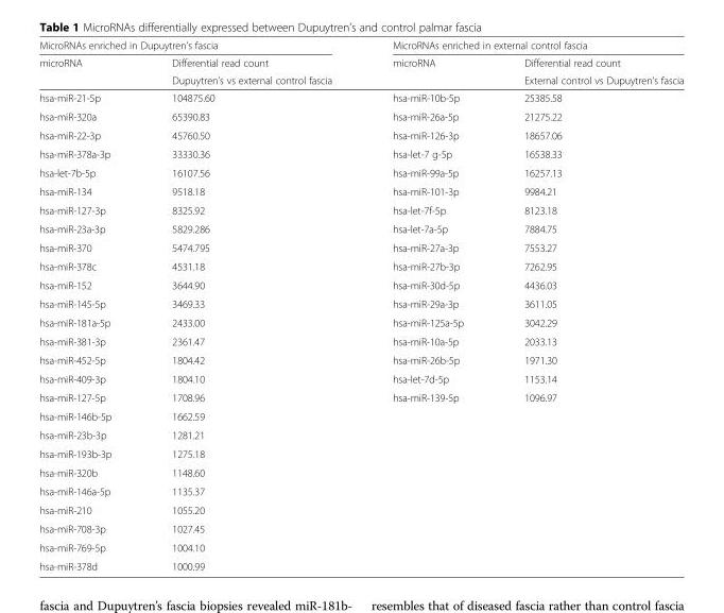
<table><thead><tr><td colspan="2">MicroRNAs enriched in Dupuytren’s fascia</td><td colspan="2">MicroRNAs enriched in external control fascia</td></tr><tr><td rowspan="2">microRNA</td><td rowspan="2">Differential read count Dupuytren’s vs external control fascia</td><td rowspan="2">microRNA</td><td rowspan="2">Differential read count External control vs Dupuytren’s fascia</td></tr><tr></tr></thead><tbody><tr><td>hsa-miR-21-5p</td><td>104875.60</td><td>hsa-miR-10b-5p</td><td>25385.58</td></tr><tr><td>hsa-miR-320a</td><td>65390.83</td><td>hsa-miR-26a-5p</td><td>21275.22</td></tr><tr><td>hsa-miR-22-3p</td><td>45760.50</td><td>hsa-miR-126-3p</td><td>18657.06</td></tr><tr><td>hsa-miR-378a-3p</td><td>33330.36</td><td>hsa-let-7 g-5p</td><td>16538.33</td></tr><tr><td>hsa-let-7b-5p</td><td>16107.56</td><td>hsa-miR-99a-5p</td><td>16257.13</td></tr><tr><td>hsa-miR-134</td><td>9518.18</td><td>hsa-miR-101-3p</td><td>9984.21</td></tr><tr><td>hsa-miR-127-3p</td><td>8325.92</td><td>hsa-let-7f-5p</td><td>8123.18</td></tr><tr><td>hsa-miR-23a-3p</td><td>5829.286</td><td>hsa-let-7a-5p</td><td>7884.75</td></tr><tr><td>hsa-miR-370</td><td>5474.795</td><td>hsa-miR-27a-3p</td><td>7553.27</td></tr><tr><td>hsa-miR-378c</td><td>4531.18</td><td>hsa-miR-27b-3p</td><td>7262.95</td></tr><tr><td>hsa-miR-152</td><td>3644.90</td><td>hsa-miR-30d-5p</td><td>4436.03</td></tr><tr><td>hsa-miR-145-5p</td><td>3469.33</td><td>hsa-miR-29a-3p</td><td>3611.05</td></tr><tr><td>hsa-miR-181a-5p</td><td>2433.00</td><td>hsa-miR-125a-5p</td><td>3042.29</td></tr><tr><td>hsa-miR-381-3p</td><td>2361.47</td><td>hsa-miR-10a-5p</td><td>2033.13</td></tr><tr><td>hsa-miR-452-5p</td><td>1804.42</td><td>hsa-miR-26b-5p</td><td>1971.30</td></tr><tr><td>hsa-miR-409-3p</td><td>1804.10</td><td>hsa-let-7d-5p</td><td>1153.14</td></tr><tr><td>hsa-miR-127-5p</td><td>1708.96</td><td>hsa-miR-139-5p</td><td>1096.97</td></tr><tr><td>hsa-miR-146b-5p</td><td>1662.59</td><td></td><td></td></tr><tr><td>hsa-miR-23b-3p</td><td>1281.21</td><td></td><td></td></tr><tr><td>hsa-miR-193b-3p</td><td>1275.18</td><td></td><td></td></tr><tr><td>hsa-miR-320b</td><td>1148.60</td><td></td><td></td></tr><tr><td>hsa-miR-146a-5p</td><td>1135.37</td><td></td><td></td></tr><tr><td>hsa-miR-210</td><td>1055.20</td><td></td><td></td></tr><tr><td>hsa-miR-708-3p</td><td>1027.45</td><td></td><td></td></tr><tr><td>hsa-miR-769-5p</td><td>1004.10</td><td></td><td></td></tr><tr><td>hsa-miR-378d</td><td>1000.99</td><td></td><td></td></tr></tbody></table>